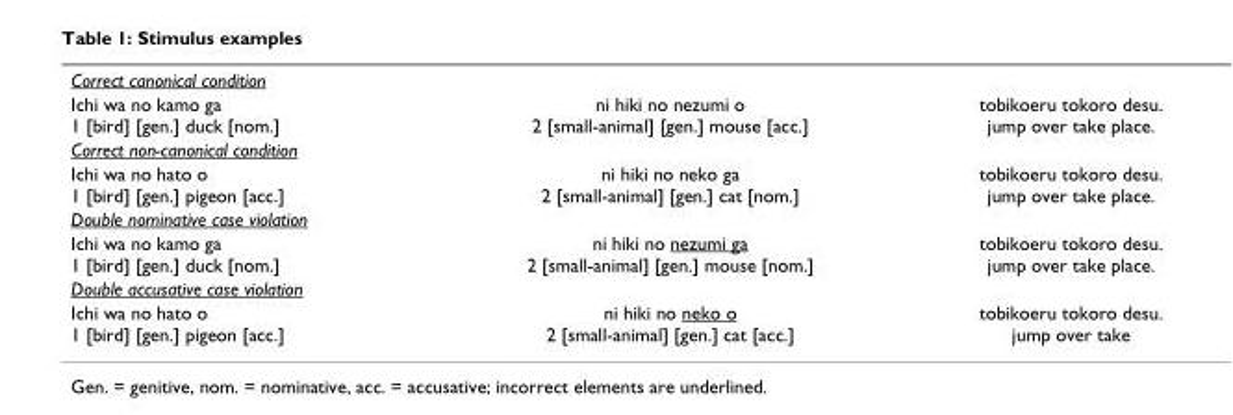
<table><tbody><tr><td colspan="3">Correct canonical condition</td></tr><tr><td>Ichi wa no kamo ga 1 [bird] [gen.] duck [nom.]</td><td>ni hiki no nezumi o 2 [small-animal] [gen.] mouse [acc.]</td><td>tobikoeru tokoro desu. jump over take place.</td></tr><tr><td colspan="3">Correct non-canonical condition</td></tr><tr><td>Ichi wa no hato o 1 [bird] [gen.] pigeon [acc.]</td><td>ni hiki no neko ga 2 [small-animal] [gen.] cat [nom.]</td><td>tobikoeru tokoro desu. jump over take place.</td></tr><tr><td colspan="3">Double nominative case violation</td></tr><tr><td>Ichi wa no kamo ga 1 [bird] [gen.] duck [nom.]</td><td>ni hiki no nezumi ga 2 [small-animal] [gen.] mouse [nom.]</td><td>tobikoeru tokoro desu. jump over take place.</td></tr><tr><td colspan="3">Double accusative case violation</td></tr><tr><td>Ichi wa no hato o 1 [bird] [gen.] pigeon [acc.]</td><td>ni hiki no neko o 2 [small-animal] [gen.] cat [acc.]</td><td>tobikoeru tokoro desu. jump over take</td></tr></tbody></table>